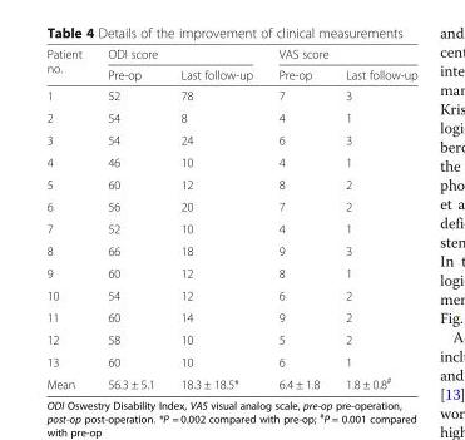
<table><thead><tr><td rowspan="2">Patient no.</td><td colspan="2">ODI score</td><td colspan="2">VAS score</td></tr><tr><td>Pre-op</td><td>Last follow-up</td><td>Pre-op</td><td>Last follow-up</td></tr></thead><tbody><tr><td>1</td><td>52</td><td>78</td><td>7</td><td>3</td></tr><tr><td>2</td><td>54</td><td>8</td><td>4</td><td>1</td></tr><tr><td>3</td><td>54</td><td>24</td><td>6</td><td>3</td></tr><tr><td>4</td><td>46</td><td>10</td><td>4</td><td>1</td></tr><tr><td>5</td><td>60</td><td>12</td><td>8</td><td>2</td></tr><tr><td>6</td><td>56</td><td>20</td><td>7</td><td>2</td></tr><tr><td>7</td><td>52</td><td>10</td><td>4</td><td>1</td></tr><tr><td>8</td><td>66</td><td>18</td><td>9</td><td>3</td></tr><tr><td>9</td><td>60</td><td>12</td><td>8</td><td>1</td></tr><tr><td>10</td><td>54</td><td>12</td><td>6</td><td>2</td></tr><tr><td>11</td><td>60</td><td>14</td><td>9</td><td>2</td></tr><tr><td>12</td><td>58</td><td>10</td><td>5</td><td>2</td></tr><tr><td>13</td><td>60</td><td>10</td><td>6</td><td>1</td></tr><tr><td>Mean</td><td>56.3 ± 5.1</td><td>18.3 ± 18.5*</td><td>6.4 ± 1.8</td><td>1.8 ± 0.8<sup>#</sup></td></tr></tbody></table>